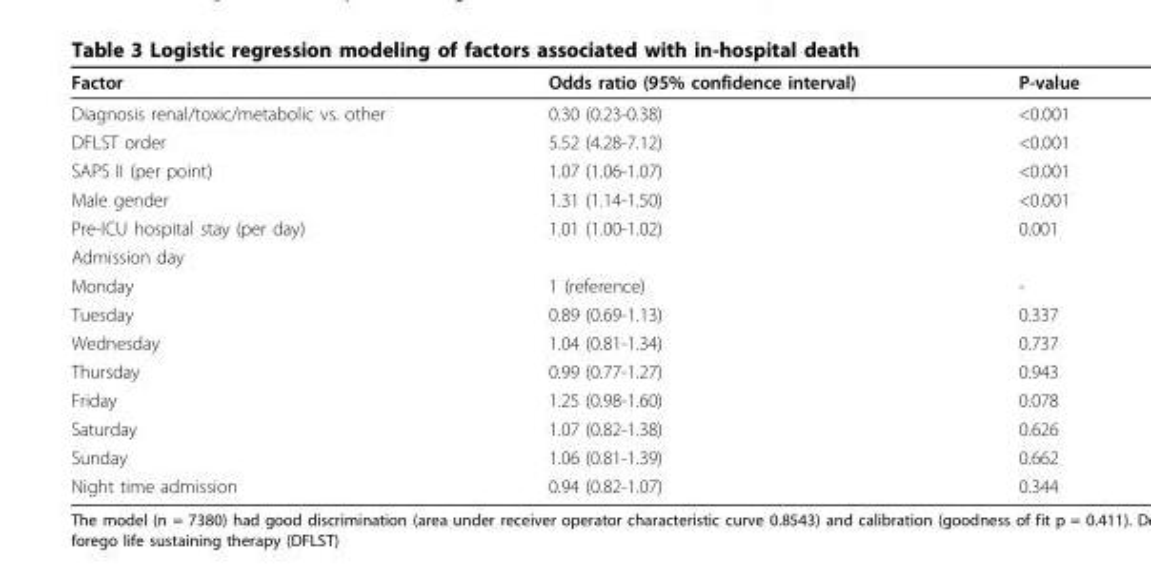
<table><thead><tr><td>Factor</td><td>Odds ratio (95% confidence interval)</td><td>P-value</td></tr></thead><tbody><tr><td>Diagnosis renal/toxic/metabolic vs. other</td><td>0.30 (0.23-0.38)</td><td>&lt;0.001</td></tr><tr><td>DFLST order</td><td>5.52 (4.28-7.12)</td><td>&lt;0.001</td></tr><tr><td>SAPS II (per point)</td><td>1.07 (1.06-1.07)</td><td>&lt;0.001</td></tr><tr><td>Male gender</td><td>1.31 (1.14-1.50)</td><td>&lt;0.001</td></tr><tr><td>Pre-ICU hospital stay (per day)</td><td>1.01 (1.00-1.02)</td><td>0.001</td></tr><tr><td colspan="3">Admission day</td></tr><tr><td>Monday</td><td>1 (reference)</td><td>-</td></tr><tr><td>Tuesday</td><td>0.89 (0.69-1.13)</td><td>0.337</td></tr><tr><td>Wednesday</td><td>1.04 (0.81-1.34)</td><td>0.737</td></tr><tr><td>Thursday</td><td>0.99 (0.77-1.27)</td><td>0.943</td></tr><tr><td>Friday</td><td>1.25 (0.98-1.60)</td><td>0.078</td></tr><tr><td>Saturday</td><td>1.07 (0.82-1.38)</td><td>0.626</td></tr><tr><td>Sunday</td><td>1.06 (0.81-1.39)</td><td>0.662</td></tr><tr><td>Night time admission</td><td>0.94 (0.82-1.07)</td><td>0.344</td></tr></tbody></table>